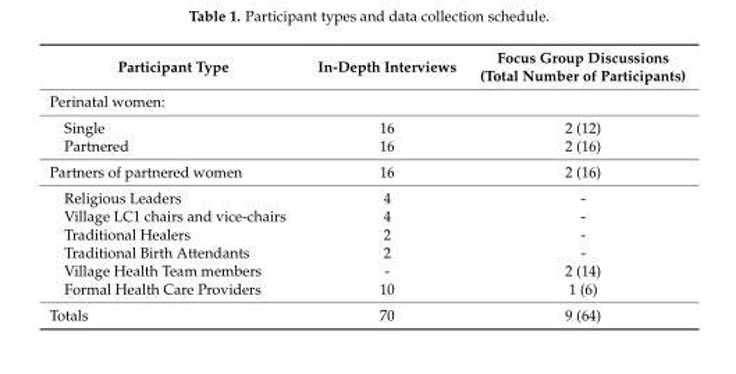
<table><thead><tr><td>Participant Type</td><td>In-Depth Interviews</td><td>Focus Group Discussions (Total Number of Participants)</td></tr></thead><tbody><tr><td colspan="3">Perinatal women:</td></tr><tr><td>Single</td><td>16</td><td>2 (12)</td></tr><tr><td>Partnered</td><td>16</td><td>2 (16)</td></tr><tr><td>Partners of partnered women</td><td>16</td><td>2 (16)</td></tr><tr><td>Religious Leaders</td><td>4</td><td>-</td></tr><tr><td>Village LC1 chairs and vice-chairs</td><td>4</td><td>-</td></tr><tr><td>Traditional Healers</td><td>2</td><td>-</td></tr><tr><td>Traditional Birth Attendants</td><td>2</td><td>-</td></tr><tr><td>Village Health Team members</td><td>-</td><td>2 (14)</td></tr><tr><td>Formal Health Care Providers</td><td>10</td><td>1 (6)</td></tr><tr><td>Totals</td><td>70</td><td>9 (64)</td></tr></tbody></table>